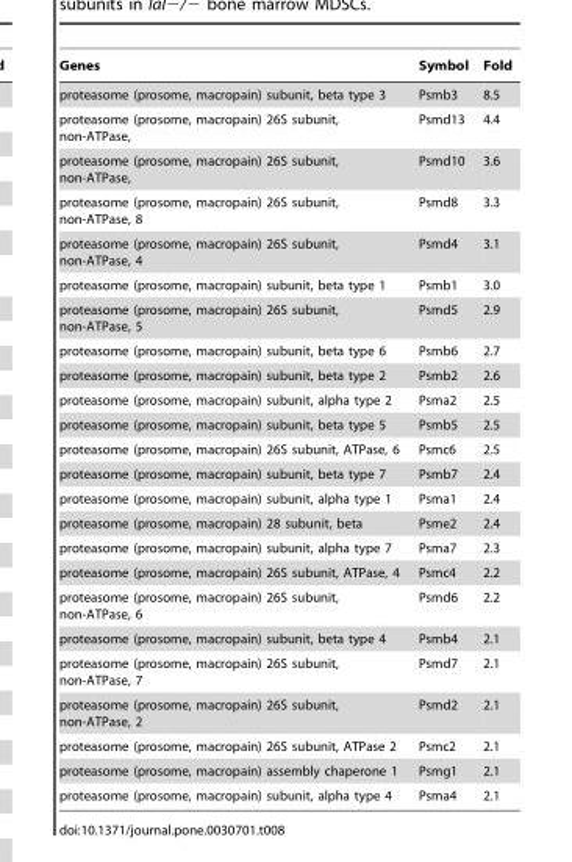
<table><thead><tr><td>Genes</td><td>Symbol</td><td>Fold</td></tr></thead><tbody><tr><td>proteasome (prosome, macropain) subunit, beta type 3</td><td>Psmb3</td><td>8.5</td></tr><tr><td>proteasome (prosome, macropain) 26S subunit, non-ATPase,</td><td>Psmd13</td><td>4.4</td></tr><tr><td>proteasome (prosome, macropain) 26S subunit, non-ATPase,</td><td>Psmd10</td><td>3.6</td></tr><tr><td>proteasome (prosome, macropain) 26S subunit, non-ATPase, 8</td><td>Psmd8</td><td>3.3</td></tr><tr><td>proteasome (prosome, macropain) 26S subunit, non-ATPase, 4</td><td>Psmd4</td><td>3.1</td></tr><tr><td>proteasome (prosome, macropain) subunit, beta type 1</td><td>Psmb1</td><td>3.0</td></tr><tr><td>proteasome (prosome, macropain) 26S subunit, non-ATPase, 5</td><td>Psmd5</td><td>2.9</td></tr><tr><td>proteasome (prosome, macropain) subunit, beta type 6</td><td>Psmb6</td><td>2.7</td></tr><tr><td>proteasome (prosome, macropain) subunit, beta type 2</td><td>Psmb2</td><td>2.6</td></tr><tr><td>proteasome (prosome, macropain) subunit, alpha type 2</td><td>Psma2</td><td>2.5</td></tr><tr><td>proteasome (prosome, macropain) subunit, beta type 5</td><td>Psmb5</td><td>2.5</td></tr><tr><td>proteasome (prosome, macropain) 26S subunit, ATPase, 6</td><td>Psmc6</td><td>2.5</td></tr><tr><td>proteasome (prosome, macropain) subunit, beta type 7</td><td>Psmb7</td><td>2.4</td></tr><tr><td>proteasome (prosome, macropain) subunit, alpha type 1</td><td>Psma1</td><td>2.4</td></tr><tr><td>proteasome (prosome, macropain) 28 subunit, beta</td><td>Psme2</td><td>2.4</td></tr><tr><td>proteasome (prosome, macropain) subunit, alpha type 7</td><td>Psma7</td><td>2.3</td></tr><tr><td>proteasome (prosome, macropain) 26S subunit, ATPase, 4</td><td>Psmc4</td><td>2.2</td></tr><tr><td>proteasome (prosome, macropain) 26S subunit, non-ATPase, 6</td><td>Psmd6</td><td>2.2</td></tr><tr><td>proteasome (prosome, macropain) subunit, beta type 4</td><td>Psmb4</td><td>2.1</td></tr><tr><td>proteasome (prosome, macropain) 26S subunit, non-ATPase, 7</td><td>Psmd7</td><td>2.1</td></tr><tr><td>proteasome (prosome, macropain) 26S subunit, non-ATPase, 2</td><td>Psmd2</td><td>2.1</td></tr><tr><td>proteasome (prosome, macropain) 26S subunit, ATPase 2</td><td>Psmc2</td><td>2.1</td></tr><tr><td>proteasome (prosome, macropain) assembly chaperone 1</td><td>Psmg1</td><td>2.1</td></tr><tr><td>proteasome (prosome, macropain) subunit, alpha type 4</td><td>Psma4</td><td>2.1</td></tr></tbody></table>